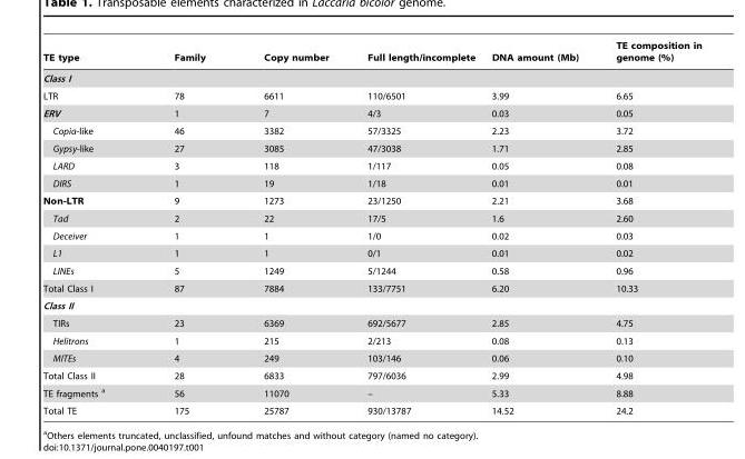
<table><thead><tr><td>TE type</td><td>Family</td><td>Copy number</td><td>Full length/incomplete</td><td>DNA amount (Mb)</td><td>TE composition in genome (%)</td></tr></thead><tbody><tr><td colspan="6">Class I</td></tr><tr><td>LTR</td><td>78</td><td>6611</td><td>110/6501</td><td>3.99</td><td>6.65</td></tr><tr><td>ERV</td><td>1</td><td>7</td><td>4/3</td><td>0.03</td><td>0.05</td></tr><tr><td>Copia-like</td><td>46</td><td>3382</td><td>57/3325</td><td>2.23</td><td>3.72</td></tr><tr><td>Gypsy-like</td><td>27</td><td>3085</td><td>47/3038</td><td>1.71</td><td>2.85</td></tr><tr><td>LARD</td><td>3</td><td>118</td><td>1/117</td><td>0.05</td><td>0.08</td></tr><tr><td>DIRS</td><td>1</td><td>19</td><td>1/18</td><td>0.01</td><td>0.01</td></tr><tr><td>Non-LTR</td><td>9</td><td>1273</td><td>23/1250</td><td>2.21</td><td>3.68</td></tr><tr><td>Tad</td><td>2</td><td>22</td><td>17/5</td><td>1.6</td><td>2.60</td></tr><tr><td>Deceiver</td><td>1</td><td>1</td><td>1/0</td><td>0.02</td><td>0.03</td></tr><tr><td>L1</td><td>1</td><td>1</td><td>0/1</td><td>0.01</td><td>0.02</td></tr><tr><td>LINEs</td><td>5</td><td>1249</td><td>5/1244</td><td>0.58</td><td>0.96</td></tr><tr><td>Total Class I</td><td>87</td><td>7884</td><td>133/7751</td><td>6.20</td><td>10.33</td></tr><tr><td colspan="6">Class II</td></tr><tr><td>TIRs</td><td>23</td><td>6369</td><td>692/5677</td><td>2.85</td><td>4.75</td></tr><tr><td>Helitrons</td><td>1</td><td>215</td><td>2/213</td><td>0.08</td><td>0.13</td></tr><tr><td>MITEs</td><td>4</td><td>249</td><td>103/146</td><td>0.06</td><td>0.10</td></tr><tr><td>Total Class II</td><td>28</td><td>6833</td><td>797/6036</td><td>2.99</td><td>4.98</td></tr><tr><td>TE fragments a</td><td>56</td><td>11070</td><td>–</td><td>5.33</td><td>8.88</td></tr><tr><td>Total TE</td><td>175</td><td>25787</td><td>930/13787</td><td>14.52</td><td>24.2</td></tr></tbody></table>